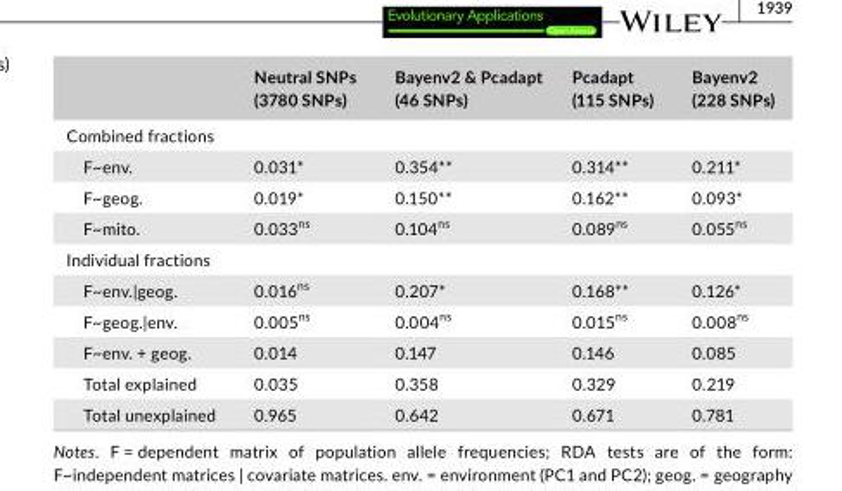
<table><thead><tr><td></td><td>Neutral SNPs (3780 SNPs)</td><td>Bayenv2 &amp; Pcadapt (46 SNPs)</td><td>Pcadapt (115 SNPs)</td><td>Bayenv2 (228 SNPs)</td></tr></thead><tbody><tr><td colspan="5">Combined fractions</td></tr><tr><td>F~env.</td><td>0.031*</td><td>0.354**</td><td>0.314**</td><td>0.211*</td></tr><tr><td>F~geog.</td><td>0.019*</td><td>0.150**</td><td>0.162**</td><td>0.093*</td></tr><tr><td>F~mito.</td><td>0.033<sup>ns</sup></td><td>0.104<sup>ns</sup></td><td>0.089<sup>ns</sup></td><td>0.055<sup>ns</sup></td></tr><tr><td colspan="5">Individual fractions</td></tr><tr><td>F~env.|geog.</td><td>0.016<sup>ns</sup></td><td>0.207*</td><td>0.168**</td><td>0.126*</td></tr><tr><td>F~geog.|env.</td><td>0.005<sup>ns</sup></td><td>0.004<sup>ns</sup></td><td>0.015<sup>ns</sup></td><td>0.008<sup>ns</sup></td></tr><tr><td>F~env. + geog.</td><td>0.014</td><td>0.147</td><td>0.146</td><td>0.085</td></tr><tr><td>Total explained</td><td>0.035</td><td>0.358</td><td>0.329</td><td>0.219</td></tr><tr><td>Total unexplained</td><td>0.965</td><td>0.642</td><td>0.671</td><td>0.781</td></tr></tbody></table>